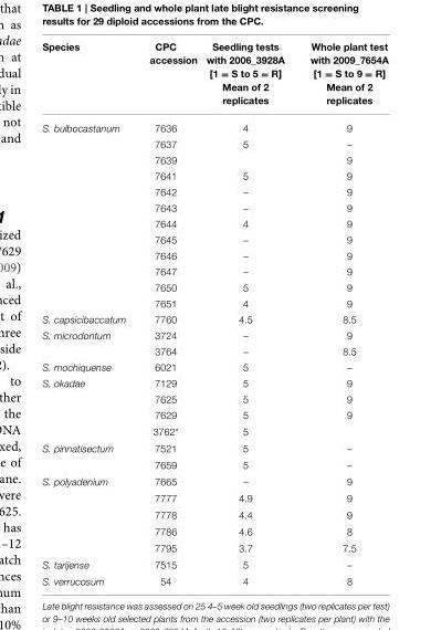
<table><thead><tr><td>Species</td><td>CPC accession</td><td>Seedling tests with 2006_3928A [1 = S to 5 = R] Mean of 2 replicates</td><td>Whole plant test with 2009_7654A [1 = S to 9 = R] Mean of 2 replicates</td></tr></thead><tbody><tr><td rowspan="12">S. bulbocastanum</td><td>7636</td><td>4</td><td>9</td></tr><tr><td>7637</td><td>5</td><td>–</td></tr><tr><td>7639</td><td></td><td>9</td></tr><tr><td>7641</td><td>5</td><td>9</td></tr><tr><td>7642</td><td>–</td><td>9</td></tr><tr><td>7643</td><td>–</td><td>9</td></tr><tr><td>7644</td><td>4</td><td>9</td></tr><tr><td>7645</td><td>–</td><td>9</td></tr><tr><td>7646</td><td>–</td><td>9</td></tr><tr><td>7647</td><td>–</td><td>9</td></tr><tr><td>7650</td><td>5</td><td>9</td></tr><tr><td>7651</td><td>4</td><td>9</td></tr><tr><td>S. capsicibaccatum</td><td>7760</td><td>4.5</td><td>8.5</td></tr><tr><td rowspan="2">S. microdontum</td><td>3724</td><td>–</td><td>9</td></tr><tr><td>3764</td><td>–</td><td>8.5</td></tr><tr><td>S. mochiquense</td><td>6021</td><td>5</td><td>–</td></tr><tr><td rowspan="4">S. okadae</td><td>7129</td><td>5</td><td>9</td></tr><tr><td>7625</td><td>5</td><td>9</td></tr><tr><td>7629</td><td>5</td><td>9</td></tr><tr><td>3762*</td><td>5</td><td></td></tr><tr><td rowspan="2">S. pinnatisectum</td><td>7521</td><td>5</td><td>–</td></tr><tr><td>7659</td><td>5</td><td>–</td></tr><tr><td rowspan="5">S. polyadenium</td><td>7665</td><td>–</td><td>9</td></tr><tr><td>7777</td><td>4.9</td><td>9</td></tr><tr><td>7778</td><td>4.4</td><td>9</td></tr><tr><td>7786</td><td>4.6</td><td>8</td></tr><tr><td>7795</td><td>3.7</td><td>7.5</td></tr><tr><td>S. tarijense</td><td>7515</td><td>5</td><td>–</td></tr><tr><td>S. verrucosum</td><td>54</td><td>4</td><td>8</td></tr></tbody></table>